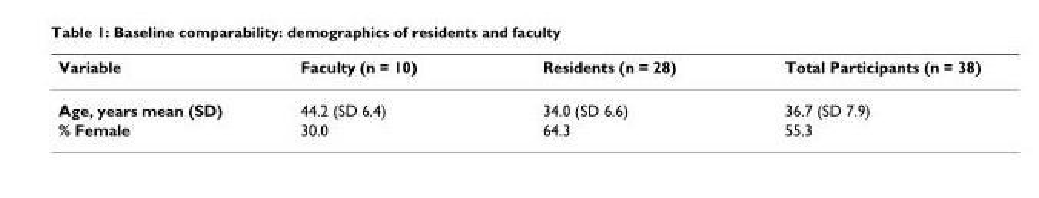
<table><thead><tr><td>Variable</td><td>Faculty (n = 10)</td><td>Residents (n = 28)</td><td>Total Participants (n = 38)</td></tr></thead><tbody><tr><td>Age, years mean (SD)</td><td>44.2 (SD 6.4)</td><td>34.0 (SD 6.6)</td><td>36.7 (SD 7.9)</td></tr><tr><td>% Female</td><td>30.0</td><td>64.3</td><td>55.3</td></tr></tbody></table>